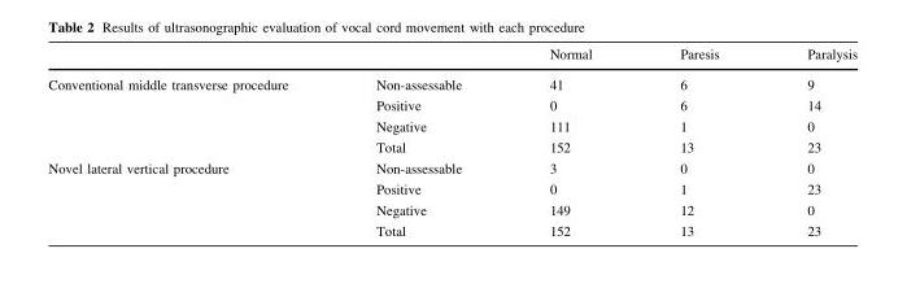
<table><thead><tr><td></td><td></td><td>Normal</td><td>Paresis</td><td>Paralysis</td></tr></thead><tbody><tr><td rowspan="4">Conventional middle transverse procedure</td><td>Non-assessable</td><td>41</td><td>6</td><td>9</td></tr><tr><td>Positive</td><td>0</td><td>6</td><td>14</td></tr><tr><td>Negative</td><td>111</td><td>1</td><td>0</td></tr><tr><td>Total</td><td>152</td><td>13</td><td>23</td></tr><tr><td rowspan="4">Novel lateral vertical procedure</td><td>Non-assessable</td><td>3</td><td>0</td><td>0</td></tr><tr><td>Positive</td><td>0</td><td>1</td><td>23</td></tr><tr><td>Negative</td><td>149</td><td>12</td><td>0</td></tr><tr><td>Total</td><td>152</td><td>13</td><td>23</td></tr></tbody></table>